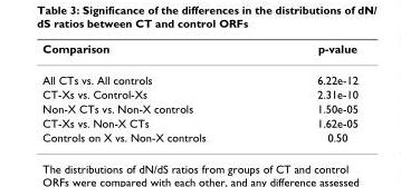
<table><thead><tr><td>Comparison</td><td>p-value</td></tr></thead><tbody><tr><td>All CTs vs. All controls</td><td>6.22e-12</td></tr><tr><td>CT-Xs vs. Control-Xs</td><td>2.31e-10</td></tr><tr><td>Non-X CTs vs. Non-X controls</td><td>1.50e-05</td></tr><tr><td>CT-Xs vs. Non-X CTs</td><td>1.62e-05</td></tr><tr><td>Controls on X vs. Non-X controls</td><td>0.50</td></tr></tbody></table>